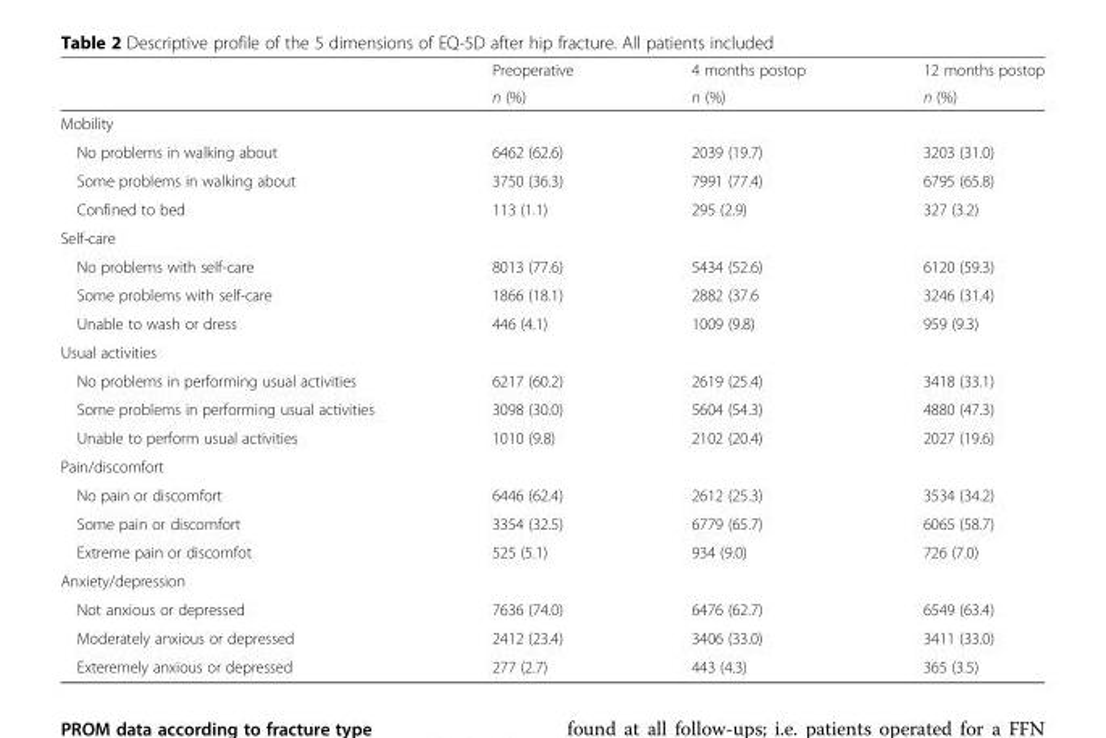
<table><thead><tr><td rowspan="2"></td><td rowspan="2">Preoperative n (%)</td><td rowspan="2">4 months postop n (%)</td><td rowspan="2">12 months postop n (%)</td></tr><tr></tr></thead><tbody><tr><td colspan="4">Mobility</td></tr><tr><td>No problems in walking about</td><td>6462 (62.6)</td><td>2039 (19.7)</td><td>3203 (31.0)</td></tr><tr><td>Some problems in walking about</td><td>3750 (36.3)</td><td>7991 (77.4)</td><td>6795 (65.8)</td></tr><tr><td>Confined to bed</td><td>113 (1.1)</td><td>295 (2.9)</td><td>327 (3.2)</td></tr><tr><td colspan="4">Self-care</td></tr><tr><td>No problems with self-care</td><td>8013 (77.6)</td><td>5434 (52.6)</td><td>6120 (59.3)</td></tr><tr><td>Some problems with self-care</td><td>1866 (18.1)</td><td>2882 (37.6</td><td>3246 (31.4)</td></tr><tr><td>Unable to wash or dress</td><td>446 (4.1)</td><td>1009 (9.8)</td><td>959 (9.3)</td></tr><tr><td colspan="4">Usual activities</td></tr><tr><td>No problems in performing usual activities</td><td>6217 (60.2)</td><td>2619 (25.4)</td><td>3418 (33.1)</td></tr><tr><td>Some problems in performing usual activities</td><td>3098 (30.0)</td><td>5604 (54.3)</td><td>4880 (47.3)</td></tr><tr><td>Unable to perform usual activities</td><td>1010 (9.8)</td><td>2102 (20.4)</td><td>2027 (19.6)</td></tr><tr><td colspan="4">Pain/discomfort</td></tr><tr><td>No pain or discomfort</td><td>6446 (62.4)</td><td>2612 (25.3)</td><td>3534 (34.2)</td></tr><tr><td>Some pain or discomfort</td><td>3354 (32.5)</td><td>6779 (65.7)</td><td>6065 (58.7)</td></tr><tr><td>Extreme pain or discomfot</td><td>525 (5.1)</td><td>934 (9.0)</td><td>726 (7.0)</td></tr><tr><td colspan="4">Anxiety/depression</td></tr><tr><td>Not anxious or depressed</td><td>7636 (74.0)</td><td>6476 (62.7)</td><td>6549 (63.4)</td></tr><tr><td>Moderately anxious or depressed</td><td>2412 (23.4)</td><td>3406 (33.0)</td><td>3411 (33.0)</td></tr><tr><td>Exteremely anxious or depressed</td><td>277 (2.7)</td><td>443 (4.3)</td><td>365 (3.5)</td></tr></tbody></table>